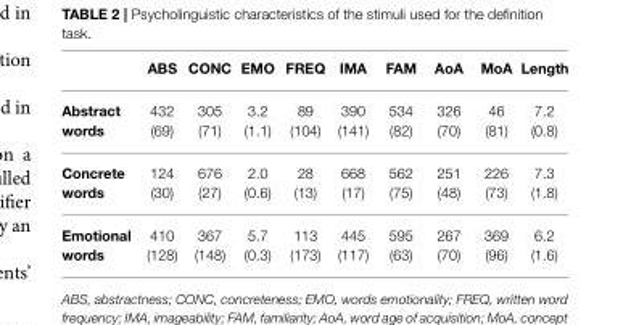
<table><thead><tr><td></td><td>ABS</td><td>CONC</td><td>EMO</td><td>FREQ</td><td>IMA</td><td>FAM</td><td>AoA</td><td>MoA</td><td>Length</td></tr></thead><tbody><tr><td>Abstract words</td><td>432 (69)</td><td>305 (71)</td><td>3.2 (1.1)</td><td>89 (104)</td><td>390 (141)</td><td>534 (82)</td><td>326 (70)</td><td>46 (81)</td><td>7.2 (0.8)</td></tr><tr><td>Concrete words</td><td>124 (30)</td><td>676 (27)</td><td>2.0 (0.6)</td><td>28 (13)</td><td>668 (17)</td><td>562 (75)</td><td>251 (48)</td><td>226 (73)</td><td>7.3 (1.8)</td></tr><tr><td>Emotional words</td><td>410 (128)</td><td>367 (148)</td><td>5.7 (0.3)</td><td>113 (173)</td><td>445 (117)</td><td>595 (63)</td><td>267 (70)</td><td>369 (96)</td><td>6.2 (1.6)</td></tr></tbody></table>